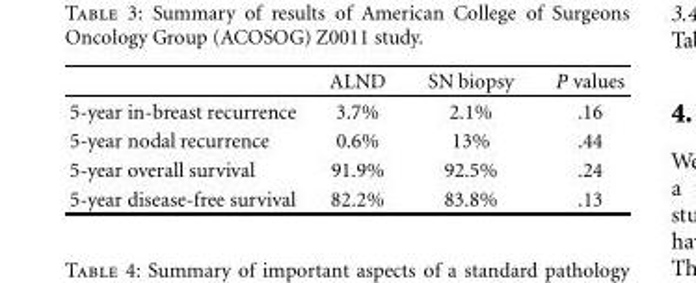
<table><thead><tr><td></td><td>ALND</td><td>SN biopsy</td><td>P values</td></tr></thead><tbody><tr><td>5-year in-breast recurrence</td><td>3.7%</td><td>2.1%</td><td>.16</td></tr><tr><td>5-year nodal recurrence</td><td>0.6%</td><td>13%</td><td>.44</td></tr><tr><td>5-year overall survival</td><td>91.9%</td><td>92.5%</td><td>.24</td></tr><tr><td>5-year disease-free survival</td><td>82.2%</td><td>83.8%</td><td>.13</td></tr></tbody></table>